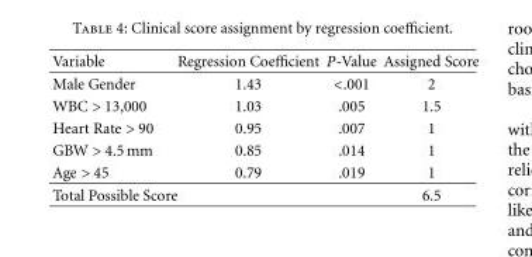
<table><thead><tr><td>Variable</td><td>Regression Coefficient</td><td>P-Value</td><td>Assigned Score</td></tr></thead><tbody><tr><td>Male Gender</td><td>1.43</td><td>&lt;.001</td><td>2</td></tr><tr><td>WBC &gt; 13,000</td><td>1.03</td><td>.005</td><td>1.5</td></tr><tr><td>Heart Rate &gt; 90</td><td>0.95</td><td>.007</td><td>1</td></tr><tr><td>GBW &gt; 4.5 mm</td><td>0.85</td><td>.014</td><td>1</td></tr><tr><td>Age &gt; 45</td><td>0.79</td><td>.019</td><td>1</td></tr><tr><td>Total Possible Score</td><td></td><td></td><td>6.5</td></tr></tbody></table>